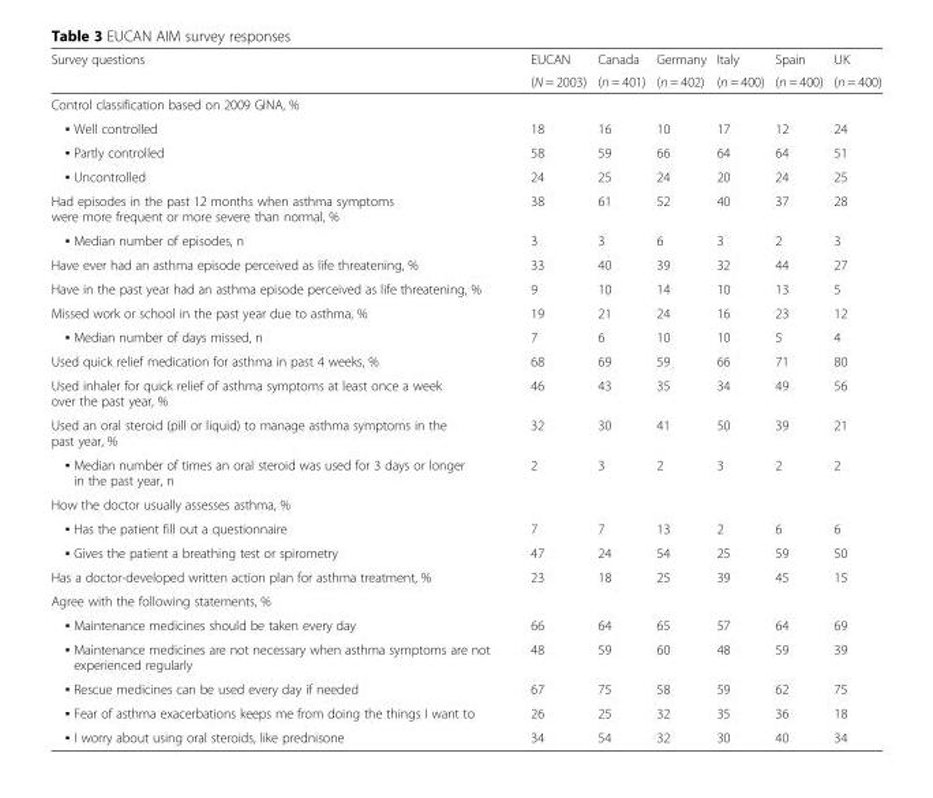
<table><thead><tr><td rowspan="2">Survey questions</td><td rowspan="2">EUCAN (N = 2003)</td><td rowspan="2">Canada (n = 401)</td><td rowspan="2">Germany (n = 402)</td><td rowspan="2">Italy (n = 400)</td><td rowspan="2">Spain (n = 400)</td><td rowspan="2">UK (n = 400)</td></tr><tr></tr></thead><tbody><tr><td colspan="7">Control classification based on 2009 GINA, %</td></tr><tr><td>▪ Well controlled</td><td>18</td><td>16</td><td>10</td><td>17</td><td>12</td><td>24</td></tr><tr><td>▪ Partly controlled</td><td>58</td><td>59</td><td>66</td><td>64</td><td>64</td><td>51</td></tr><tr><td>▪ Uncontrolled</td><td>24</td><td>25</td><td>24</td><td>20</td><td>24</td><td>25</td></tr><tr><td>Had episodes in the past 12 months when asthma symptoms were more frequent or more severe than normal, %</td><td>38</td><td>61</td><td>52</td><td>40</td><td>37</td><td>28</td></tr><tr><td>▪ Median number of episodes, n</td><td>3</td><td>3</td><td>6</td><td>3</td><td>2</td><td>3</td></tr><tr><td>Have ever had an asthma episode perceived as life threatening, %</td><td>33</td><td>40</td><td>39</td><td>32</td><td>44</td><td>27</td></tr><tr><td>Have in the past year had an asthma episode perceived as life threatening, %</td><td>9</td><td>10</td><td>14</td><td>10</td><td>13</td><td>5</td></tr><tr><td>Missed work or school in the past year due to asthma, %</td><td>19</td><td>21</td><td>24</td><td>16</td><td>23</td><td>12</td></tr><tr><td>▪ Median number of days missed, n</td><td>7</td><td>6</td><td>10</td><td>10</td><td>5</td><td>4</td></tr><tr><td>Used quick relief medication for asthma in past 4 weeks, %</td><td>68</td><td>69</td><td>59</td><td>66</td><td>71</td><td>80</td></tr><tr><td>Used inhaler for quick relief of asthma symptoms at least once a week over the past year, %</td><td>46</td><td>43</td><td>35</td><td>34</td><td>49</td><td>56</td></tr><tr><td>Used an oral steroid (pill or liquid) to manage asthma symptoms in the past year, %</td><td>32</td><td>30</td><td>41</td><td>50</td><td>39</td><td>21</td></tr><tr><td>▪ Median number of times an oral steroid was used for 3 days or longer in the past year, n</td><td>2</td><td>3</td><td>2</td><td>3</td><td>2</td><td>2</td></tr><tr><td colspan="7">How the doctor usually assesses asthma, %</td></tr><tr><td>▪ Has the patient fill out a questionnaire</td><td>7</td><td>7</td><td>13</td><td>2</td><td>6</td><td>6</td></tr><tr><td>▪ Gives the patient a breathing test or spirometry</td><td>47</td><td>24</td><td>54</td><td>25</td><td>59</td><td>50</td></tr><tr><td>Has a doctor-developed written action plan for asthma treatment, %</td><td>23</td><td>18</td><td>25</td><td>39</td><td>45</td><td>15</td></tr><tr><td colspan="7">Agree with the following statements, %</td></tr><tr><td>▪ Maintenance medicines should be taken every day</td><td>66</td><td>64</td><td>65</td><td>57</td><td>64</td><td>69</td></tr><tr><td>▪ Maintenance medicines are not necessary when asthma symptoms are not experienced regularly</td><td>48</td><td>59</td><td>60</td><td>48</td><td>59</td><td>39</td></tr><tr><td>▪ Rescue medicines can be used every day if needed</td><td>67</td><td>75</td><td>58</td><td>59</td><td>62</td><td>75</td></tr><tr><td>▪ Fear of asthma exacerbations keeps me from doing the things I want to</td><td>26</td><td>25</td><td>32</td><td>35</td><td>36</td><td>18</td></tr><tr><td>▪ I worry about using oral steroids, like prednisone</td><td>34</td><td>54</td><td>32</td><td>30</td><td>40</td><td>34</td></tr></tbody></table>